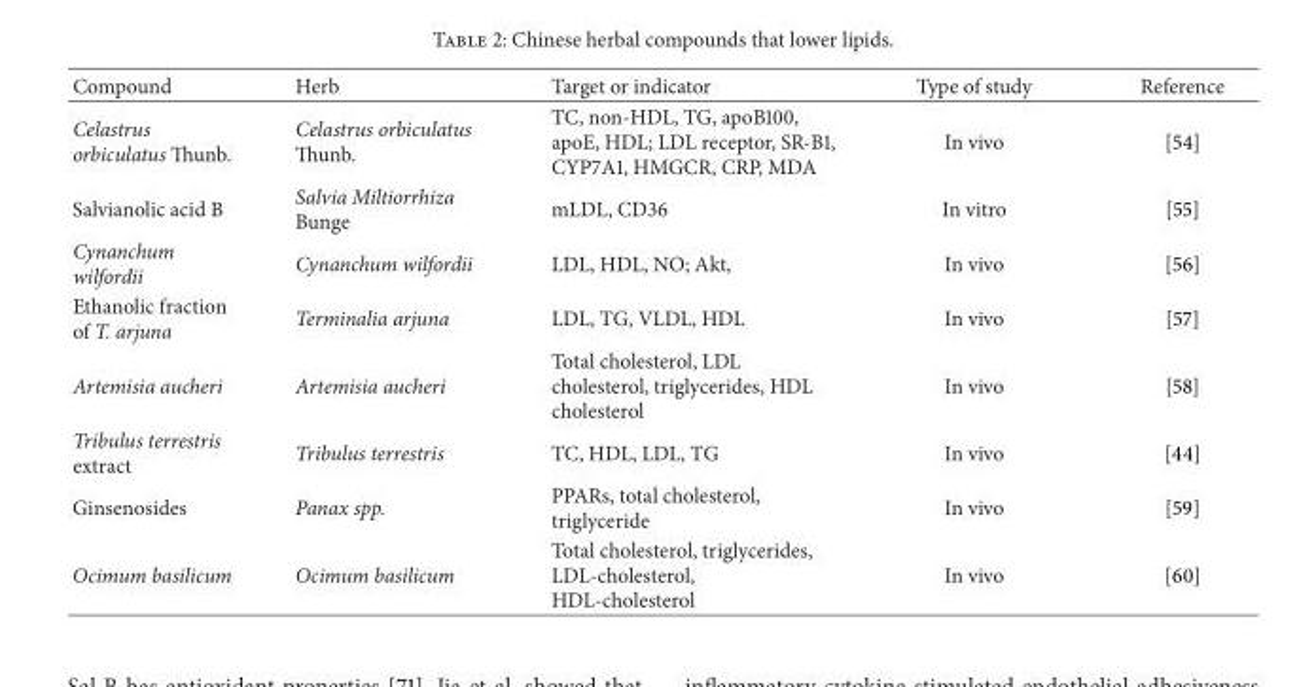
<table><thead><tr><td>Compound</td><td>Herb</td><td>Target or indicator</td><td>Type of study</td><td>Reference</td></tr></thead><tbody><tr><td>Celastrus orbiculatus Thunb.</td><td>Celastrus orbiculatus Thunb.</td><td>TC, non-HDL, TG, apoB100, apoE, HDL; LDL receptor, SR-B1, CYP7A1, HMGCR, CRP, MDA</td><td>In vivo</td><td>[54]</td></tr><tr><td>Salvianolic acid B</td><td>Salvia Miltiorrhiza Bunge</td><td>mLDL, CD36</td><td>In vitro</td><td>[55]</td></tr><tr><td>Cynanchum wilfordii</td><td>Cynanchum wilfordii</td><td>LDL, HDL, NO; Akt,</td><td>In vivo</td><td>[56]</td></tr><tr><td>Ethanolic fraction of T. arjuna</td><td>Terminalia arjuna</td><td>LDL, TG, VLDL, HDL</td><td>In vivo</td><td>[57]</td></tr><tr><td>Artemisia aucheri</td><td>Artemisia aucheri</td><td>Total cholesterol, LDL cholesterol, triglycerides, HDL cholesterol</td><td>In vivo</td><td>[58]</td></tr><tr><td>Tribulus terrestris extract</td><td>Tribulus terrestris</td><td>TC, HDL, LDL, TG</td><td>In vivo</td><td>[44]</td></tr><tr><td>Ginsenosides</td><td>Panax spp.</td><td>PPARs, total cholesterol, triglyceride</td><td>In vivo</td><td>[59]</td></tr><tr><td>Ocimum basilicum</td><td>Ocimum basilicum</td><td>Total cholesterol, triglycerides, LDL-cholesterol, HDL-cholesterol</td><td>In vivo</td><td>[60]</td></tr></tbody></table>